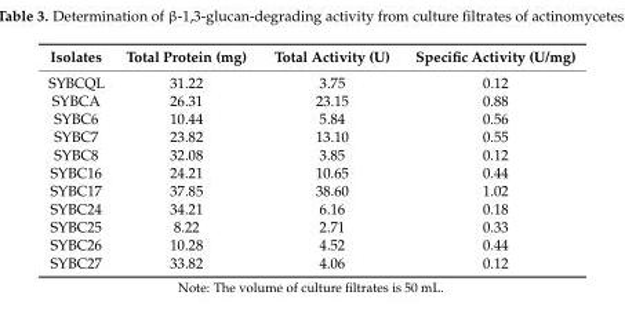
<table><thead><tr><td>Isolates</td><td>Total Protein (mg)</td><td>Total Activity (U)</td><td>Specific Activity (U/mg)</td></tr></thead><tbody><tr><td>SYBCQL</td><td>31.22</td><td>3.75</td><td>0.12</td></tr><tr><td>SYBCA</td><td>26.31</td><td>23.15</td><td>0.88</td></tr><tr><td>SYBC6</td><td>10.44</td><td>5.84</td><td>0.56</td></tr><tr><td>SYBC7</td><td>23.82</td><td>13.10</td><td>0.55</td></tr><tr><td>SYBC8</td><td>32.08</td><td>3.85</td><td>0.12</td></tr><tr><td>SYBC16</td><td>24.21</td><td>10.65</td><td>0.44</td></tr><tr><td>SYBC17</td><td>37.85</td><td>38.60</td><td>1.02</td></tr><tr><td>SYBC24</td><td>34.21</td><td>6.16</td><td>0.18</td></tr><tr><td>SYBC25</td><td>8.22</td><td>2.71</td><td>0.33</td></tr><tr><td>SYBC26</td><td>10.28</td><td>4.52</td><td>0.44</td></tr><tr><td>SYBC27</td><td>33.82</td><td>4.06</td><td>0.12</td></tr></tbody></table>